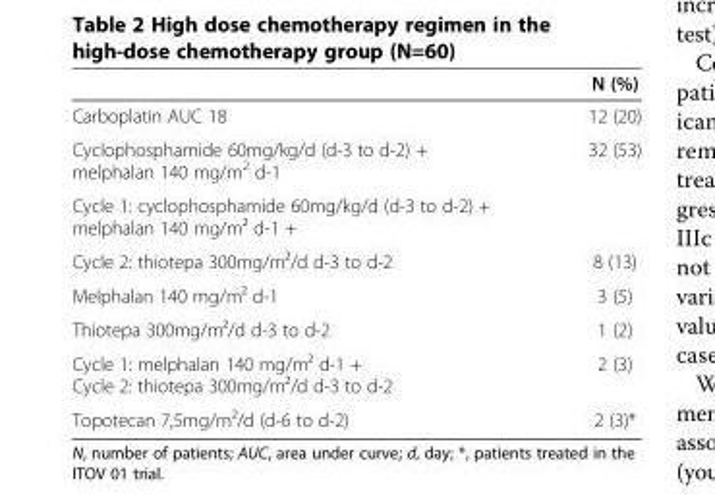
<table><thead><tr><td></td><td>N (%)</td></tr></thead><tbody><tr><td>Carboplatin AUC 18</td><td>12 (20)</td></tr><tr><td>Cyclophosphamide 60mg/kg/d (d-3 to d-2) + melphalan 140 mg/m<sup>2</sup> d-1</td><td>32 (53)</td></tr><tr><td colspan="2">Cycle 1: cyclophosphamide 60mg/kg/d (d-3 to d-2) + melphalan 140 mg/m² d-1 +</td></tr><tr><td>Cycle 2: thiotepa 300mg/m²/d d-3 to d-2</td><td>8 (13)</td></tr><tr><td>Melphalan 140 mg/m² d-1</td><td>3 (5)</td></tr><tr><td>Thiotepa 300mg/m²/d d-3 to d-2</td><td>1 (2)</td></tr><tr><td>Cycle 1: melphalan 140 mg/m² d-1 + Cycle 2: thiotepa 300mg/m²/d d-3 to d-2</td><td>2 (3)</td></tr><tr><td>Topotecan 7,5mg/m²/d (d-6 to d-2)</td><td>2 (3)*</td></tr></tbody></table>